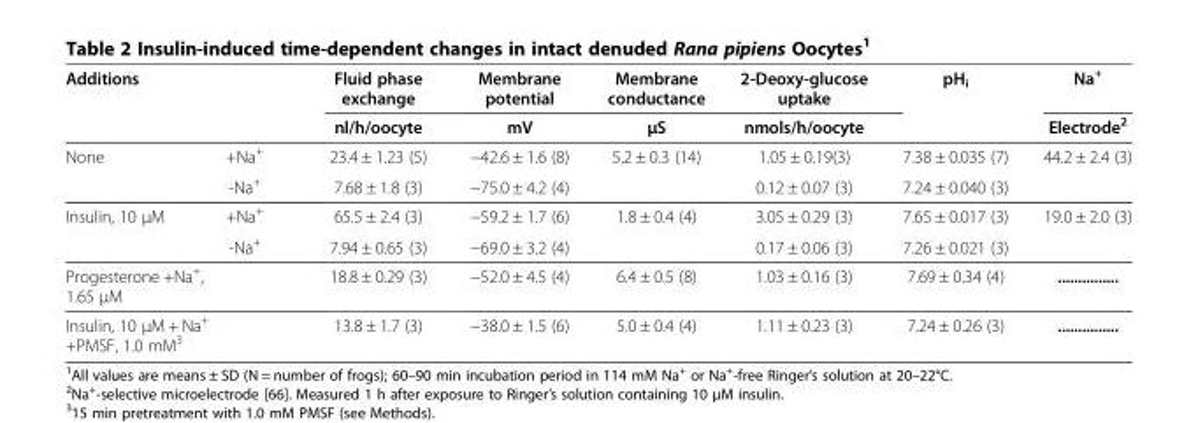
<table><thead><tr><td colspan="2">Additions</td><td rowspan="2">Fluid phase exchange nl/h/oocyte</td><td rowspan="2">Membrane potential mV</td><td rowspan="2">Membrane conductance μS</td><td rowspan="2">2-Deoxy-glucose uptake nmols/h/oocyte</td><td rowspan="2">pH<sub>i</sub></td><td rowspan="2">Na<sup>+</sup> Electrode<sup>2</sup></td></tr><tr><td></td><td></td></tr></thead><tbody><tr><td rowspan="2">None</td><td>+Na<sup>+</sup></td><td>23.4 ± 1.23 (5)</td><td>−42.6 ± 1.6 (8)</td><td>5.2 ± 0.3 (14)</td><td>1.05 ± 0.19(3)</td><td>7.38 ± 0.035 (7)</td><td>44.2 ± 2.4 (3)</td></tr><tr><td>-Na<sup>+</sup></td><td>7.68 ± 1.8 (3)</td><td>−75.0 ± 4.2 (4)</td><td></td><td>0.12 ± 0.07 (3)</td><td>7.24 ± 0.040 (3)</td><td></td></tr><tr><td rowspan="2">Insulin, 10 μM</td><td>+Na<sup>+</sup></td><td>65.5 ± 2.4 (3)</td><td>−59.2 ± 1.7 (6)</td><td>1.8 ± 0.4 (4)</td><td>3.05 ± 0.29 (3)</td><td>7.65 ± 0.017 (3)</td><td>19.0 ± 2.0 (3)</td></tr><tr><td>-Na<sup>+</sup></td><td>7.94 ± 0.65 (3)</td><td>−69.0 ± 3.2 (4)</td><td></td><td>0.17 ± 0.06 (3)</td><td>7.26 ± 0.021 (3)</td><td></td></tr><tr><td colspan="2">Progesterone +Na<sup>+</sup>, 1.65 μM</td><td>18.8 ± 0.29 (3)</td><td>−52.0 ± 4.5 (4)</td><td>6.4 ± 0.5 (8)</td><td>1.03 ± 0.16 (3)</td><td>7.69 ± 0.34 (4)</td><td>...............</td></tr><tr><td colspan="2">Insulin, 10 μM + Na<sup>+</sup> +PMSF, 1.0 mM<sup>3</sup></td><td>13.8 ± 1.7 (3)</td><td>−38.0 ± 1.5 (6)</td><td>5.0 ± 0.4 (4)</td><td>1.11 ± 0.23 (3)</td><td>7.24 ± 0.26 (3)</td><td>...............</td></tr></tbody></table>